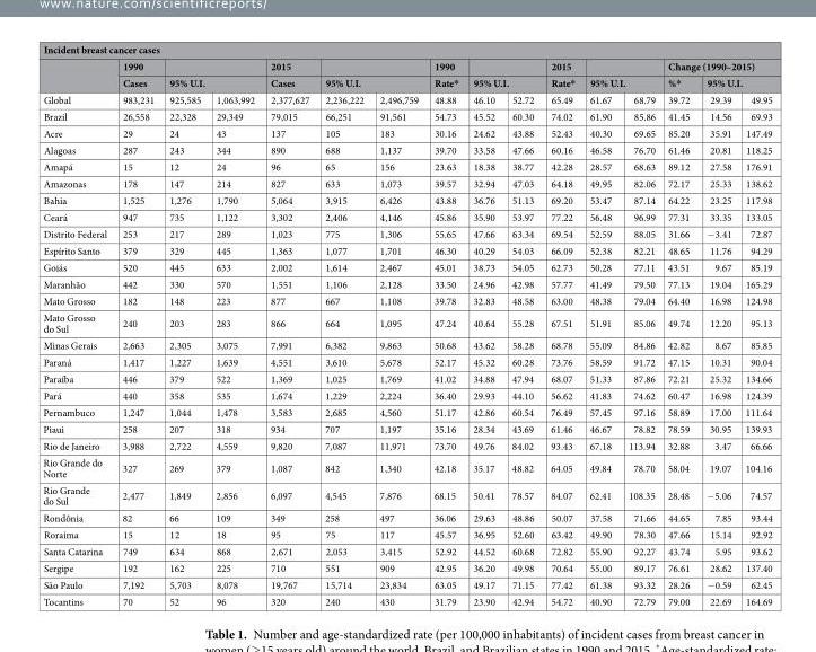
<table><thead><tr><td colspan="16">Incident breast cancer cases</td></tr><tr><td rowspan="3">Global</td><td rowspan="3">1990 Cases 983,231</td><td></td><td></td><td rowspan="3">2015 Cases 2,377,627</td><td></td><td></td><td rowspan="3">1990 Rate* 48.88</td><td></td><td></td><td rowspan="3">2015 Rate* 65.49</td><td></td><td></td><td colspan="3">Change (1990–2015)</td></tr><tr><td colspan="2">95% U.I.</td><td colspan="2">95% U.I.</td><td colspan="2">95% U.I.</td><td colspan="2">95% U.I.</td><td rowspan="2">%* 39.72</td><td colspan="2">95% U.I.</td></tr><tr><td>925,585</td><td>1,063,992</td><td>2,236,222</td><td>2,496,759</td><td>46.10</td><td>52.72</td><td>61.67</td><td>68.79</td><td>29.39</td><td>49.95</td></tr></thead><tbody><tr><td>Brazil</td><td>26,558</td><td>22,328</td><td>29,349</td><td>79,015</td><td>66,251</td><td>91,561</td><td>54.73</td><td>45.52</td><td>60.30</td><td>74.02</td><td>61.90</td><td>85.86</td><td>41.45</td><td>14.56</td><td>69.93</td></tr><tr><td>Acre</td><td>29</td><td>24</td><td>43</td><td>137</td><td>105</td><td>183</td><td>30.16</td><td>24.62</td><td>43.88</td><td>52.43</td><td>40.30</td><td>69.65</td><td>85.20</td><td>35.91</td><td>147.49</td></tr><tr><td>Alagoas</td><td>287</td><td>243</td><td>344</td><td>890</td><td>688</td><td>1,137</td><td>39.70</td><td>33.58</td><td>47.66</td><td>60.16</td><td>46.58</td><td>76.70</td><td>61.46</td><td>20.81</td><td>118.25</td></tr><tr><td>Amapá</td><td>15</td><td>12</td><td>24</td><td>96</td><td>65</td><td>156</td><td>23.63</td><td>18.38</td><td>38.77</td><td>42.28</td><td>28.57</td><td>68.63</td><td>89.12</td><td>27.58</td><td>176.91</td></tr><tr><td>Amazonas</td><td>178</td><td>147</td><td>214</td><td>827</td><td>633</td><td>1,073</td><td>39.57</td><td>32.94</td><td>47.03</td><td>64.18</td><td>49.95</td><td>82.06</td><td>72.17</td><td>25.33</td><td>138.62</td></tr><tr><td>Bahia</td><td>1,525</td><td>1,276</td><td>1,790</td><td>5,064</td><td>3,915</td><td>6,426</td><td>43.88</td><td>36.76</td><td>51.13</td><td>69.20</td><td>53.47</td><td>87.14</td><td>64.22</td><td>23.25</td><td>117.98</td></tr><tr><td>Ceará</td><td>947</td><td>735</td><td>1,122</td><td>3,302</td><td>2,406</td><td>4,146</td><td>45.86</td><td>35.90</td><td>53.97</td><td>77.22</td><td>56.48</td><td>96.99</td><td>77.31</td><td>33.35</td><td>133.05</td></tr><tr><td>Distrito Federal</td><td>253</td><td>217</td><td>289</td><td>1,023</td><td>775</td><td>1,306</td><td>55.65</td><td>47.66</td><td>63.34</td><td>69.54</td><td>52.59</td><td>88.05</td><td>31.66</td><td>−3.41</td><td>72.87</td></tr><tr><td>Espírito Santo</td><td>379</td><td>329</td><td>445</td><td>1,363</td><td>1,077</td><td>1,701</td><td>46.30</td><td>40.29</td><td>54.03</td><td>66.09</td><td>52.38</td><td>82.21</td><td>48.65</td><td>11.76</td><td>94.29</td></tr><tr><td>Goiás</td><td>520</td><td>445</td><td>633</td><td>2,002</td><td>1,614</td><td>2,467</td><td>45.01</td><td>38.73</td><td>54.05</td><td>62.73</td><td>50.28</td><td>77.11</td><td>43.51</td><td>9.67</td><td>85.19</td></tr><tr><td>Maranhão</td><td>442</td><td>330</td><td>570</td><td>1,551</td><td>1,106</td><td>2,128</td><td>33.50</td><td>24.96</td><td>42.98</td><td>57.77</td><td>41.49</td><td>79.50</td><td>77.13</td><td>19.04</td><td>165.29</td></tr><tr><td>Mato Grosso</td><td>182</td><td>148</td><td>223</td><td>877</td><td>667</td><td>1,108</td><td>39.78</td><td>32.83</td><td>48.58</td><td>63.00</td><td>48.38</td><td>79.04</td><td>64.40</td><td>16.98</td><td>124.98</td></tr><tr><td>Mato Grosso do Sul</td><td>240</td><td>203</td><td>283</td><td>866</td><td>664</td><td>1,095</td><td>47.24</td><td>40.64</td><td>55.28</td><td>67.51</td><td>51.91</td><td>85.06</td><td>49.74</td><td>12.20</td><td>95.13</td></tr><tr><td>Minas Gerais</td><td>2,663</td><td>2,305</td><td>3,075</td><td>7,991</td><td>6,382</td><td>9,863</td><td>50.68</td><td>43.62</td><td>58.28</td><td>68.78</td><td>55.09</td><td>84.86</td><td>42.82</td><td>8.67</td><td>85.85</td></tr><tr><td>Paraná</td><td>1,417</td><td>1,227</td><td>1,639</td><td>4,551</td><td>3,610</td><td>5,678</td><td>52.17</td><td>45.32</td><td>60.28</td><td>73.76</td><td>58.59</td><td>91.72</td><td>47.15</td><td>10.31</td><td>90.04</td></tr><tr><td>Paraíba</td><td>446</td><td>379</td><td>522</td><td>1,369</td><td>1,025</td><td>1,769</td><td>41.02</td><td>34.88</td><td>47.94</td><td>68.07</td><td>51.33</td><td>87.86</td><td>72.21</td><td>25.32</td><td>134.66</td></tr><tr><td>Pará</td><td>440</td><td>358</td><td>535</td><td>1,674</td><td>1,229</td><td>2,224</td><td>36.40</td><td>29.93</td><td>44.10</td><td>56.62</td><td>41.83</td><td>74.62</td><td>60.47</td><td>16.98</td><td>124.39</td></tr><tr><td>Pernambuco</td><td>1,247</td><td>1,044</td><td>1,478</td><td>3,583</td><td>2,685</td><td>4,560</td><td>51.17</td><td>42.86</td><td>60.54</td><td>76.49</td><td>57.45</td><td>97.16</td><td>58.89</td><td>17.00</td><td>111.64</td></tr><tr><td>Piaui</td><td>258</td><td>207</td><td>318</td><td>934</td><td>707</td><td>1,197</td><td>35.16</td><td>28.34</td><td>43.69</td><td>61.46</td><td>46.67</td><td>78.82</td><td>78.59</td><td>30.95</td><td>139.93</td></tr><tr><td>Rio de Janeiro</td><td>3,988</td><td>2,722</td><td>4,559</td><td>9,820</td><td>7,087</td><td>11,971</td><td>73.70</td><td>49.76</td><td>84.02</td><td>93.43</td><td>67.18</td><td>113.94</td><td>32.88</td><td>3.47</td><td>66.66</td></tr><tr><td>Rio Grande do Norte</td><td>327</td><td>269</td><td>379</td><td>1,087</td><td>842</td><td>1,340</td><td>42.18</td><td>35.17</td><td>48.82</td><td>64.05</td><td>49.84</td><td>78.70</td><td>58.04</td><td>19.07</td><td>104.16</td></tr><tr><td>Rio Grande do Sul</td><td>2,477</td><td>1,849</td><td>2,856</td><td>6,097</td><td>4,545</td><td>7,876</td><td>68.15</td><td>50.41</td><td>78.57</td><td>84.07</td><td>62.41</td><td>108.35</td><td>28.48</td><td>−5.06</td><td>74.57</td></tr><tr><td>Rondônia</td><td>82</td><td>66</td><td>109</td><td>349</td><td>258</td><td>497</td><td>36.06</td><td>29.63</td><td>48.86</td><td>50.07</td><td>37.58</td><td>71.66</td><td>44.65</td><td>7.85</td><td>93.44</td></tr><tr><td>Roraima</td><td>15</td><td>12</td><td>18</td><td>95</td><td>75</td><td>117</td><td>45.57</td><td>36.95</td><td>52.60</td><td>63.42</td><td>49.90</td><td>78.30</td><td>47.66</td><td>15.14</td><td>92.92</td></tr><tr><td>Santa Catarina</td><td>749</td><td>634</td><td>868</td><td>2,671</td><td>2,053</td><td>3,415</td><td>52.92</td><td>44.52</td><td>60.68</td><td>72.82</td><td>55.90</td><td>92.27</td><td>43.74</td><td>5.95</td><td>93.62</td></tr><tr><td>Sergipe</td><td>192</td><td>162</td><td>225</td><td>710</td><td>551</td><td>909</td><td>42.95</td><td>36.20</td><td>49.98</td><td>70.64</td><td>55.00</td><td>89.17</td><td>76.61</td><td>28.62</td><td>137.40</td></tr><tr><td>São Paulo</td><td>7,192</td><td>5,703</td><td>8,078</td><td>19,767</td><td>15,714</td><td>23,834</td><td>63.05</td><td>49.17</td><td>71.15</td><td>77.42</td><td>61.38</td><td>93.32</td><td>28.26</td><td>−0.59</td><td>62.45</td></tr><tr><td>Tocantins</td><td>70</td><td>52</td><td>96</td><td>320</td><td>240</td><td>430</td><td>31.79</td><td>23.90</td><td>42.94</td><td>54.72</td><td>40.90</td><td>72.79</td><td>79.00</td><td>22.69</td><td>164.69</td></tr></tbody></table>